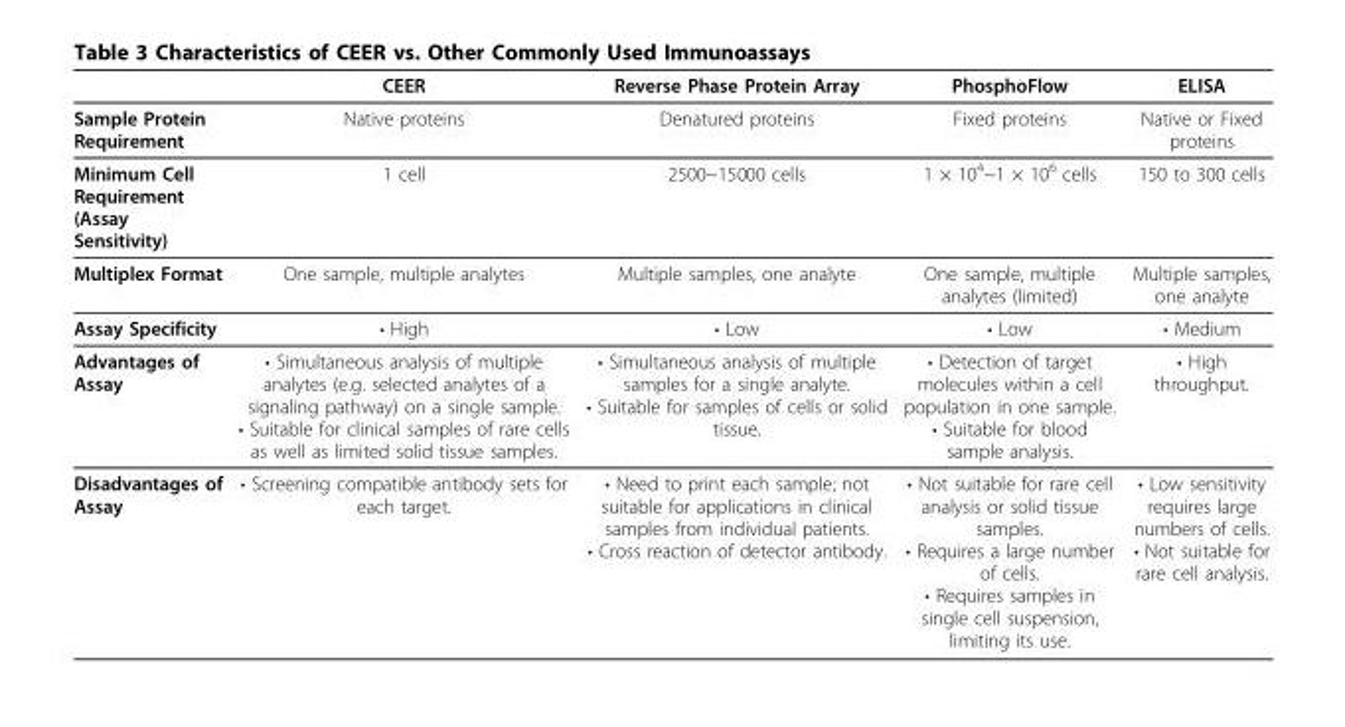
<table><thead><tr><td></td><td>CEER</td><td>Reverse Phase Protein Array</td><td>PhosphoFlow</td><td>ELISA</td></tr></thead><tbody><tr><td>Sample Protein Requirement</td><td>Native proteins</td><td>Denatured proteins</td><td>Fixed proteins</td><td>Native or Fixed proteins</td></tr><tr><td>Minimum Cell Requirement (Assay Sensitivity)</td><td>1 cell</td><td>2500~15000 cells</td><td>1 × 10<sup>4</sup>~1 × 10<sup>6</sup> cells</td><td>150 to 300 cells</td></tr><tr><td>Multiplex Format</td><td>One sample, multiple analytes</td><td>Multiple samples, one analyte</td><td>One sample, multiple analytes (limited)</td><td>Multiple samples, one analyte</td></tr><tr><td>Assay Specificity</td><td>• High</td><td>• Low</td><td>• Low</td><td>• Medium</td></tr><tr><td>Advantages of Assay</td><td>• Simultaneous analysis of multiple analytes (e.g. selected analytes of a signaling pathway) on a single sample. • Suitable for clinical samples of rare cells as well as limited solid tissue samples.</td><td>• Simultaneous analysis of multiple samples for a single analyte. • Suitable for samples of cells or solid tissue.</td><td>• Detection of target molecules within a cell population in one sample. • Suitable for blood sample analysis.</td><td>• High throughput.</td></tr><tr><td>Disadvantages of Assay</td><td>• Screening compatible antibody sets for each target.</td><td>• Need to print each sample; not suitable for applications in clinical samples from individual patients. • Cross reaction of detector antibody.</td><td>• Not suitable for rare cell analysis or solid tissue samples. • Requires a large number of cells. • Requires samples in single cell suspension, limiting its use.</td><td>• Low sensitivity requires large numbers of cells. • Not suitable for rare cell analysis.</td></tr></tbody></table>